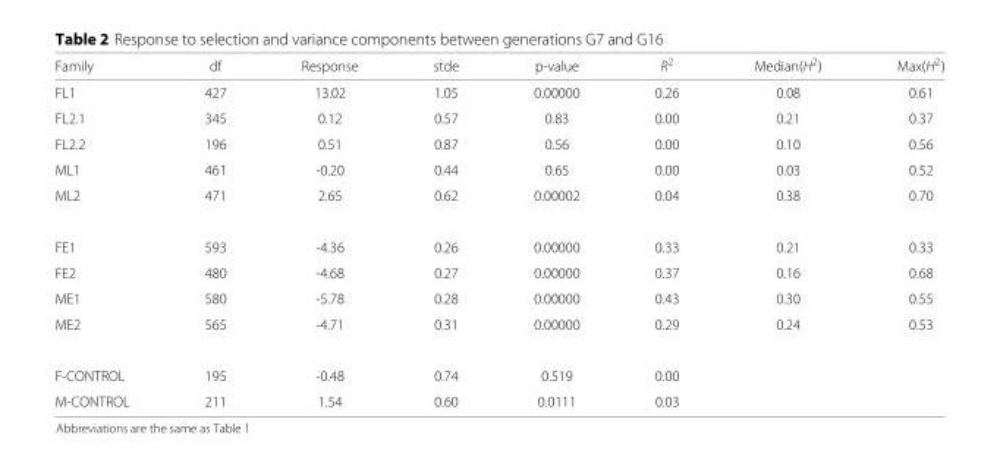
<table><thead><tr><td>Family</td><td>df</td><td>Response</td><td>stde</td><td>p-value</td><td>R<sup>2</sup></td><td>Median(H<sup>2</sup>)</td><td>Max(H<sup>2</sup>)</td></tr></thead><tbody><tr><td>FL1</td><td>427</td><td>13.02</td><td>1.05</td><td>0.00000</td><td>0.26</td><td>0.08</td><td>0.61</td></tr><tr><td>FL2.1</td><td>345</td><td>0.12</td><td>0.57</td><td>0.83</td><td>0.00</td><td>0.21</td><td>0.37</td></tr><tr><td>FL2.2</td><td>196</td><td>0.51</td><td>0.87</td><td>0.56</td><td>0.00</td><td>0.10</td><td>0.56</td></tr><tr><td>ML1</td><td>461</td><td>-0.20</td><td>0.44</td><td>0.65</td><td>0.00</td><td>0.03</td><td>0.52</td></tr><tr><td>ML2</td><td>471</td><td>2.65</td><td>0.62</td><td>0.00002</td><td>0.04</td><td>0.38</td><td>0.70</td></tr><tr><td>FE1</td><td>593</td><td>-4.36</td><td>0.26</td><td>0.00000</td><td>0.33</td><td>0.21</td><td>0.33</td></tr><tr><td>FE2</td><td>480</td><td>-4.68</td><td>0.27</td><td>0.00000</td><td>0.37</td><td>0.16</td><td>0.68</td></tr><tr><td>ME1</td><td>580</td><td>-5.78</td><td>0.28</td><td>0.00000</td><td>0.43</td><td>0.30</td><td>0.55</td></tr><tr><td>ME2</td><td>565</td><td>-4.71</td><td>0.31</td><td>0.00000</td><td>0.29</td><td>0.24</td><td>0.53</td></tr><tr><td>F-CONTROL</td><td>195</td><td>-0.48</td><td>0.74</td><td>0.519</td><td>0.00</td><td></td><td></td></tr><tr><td>M-CONTROL</td><td>211</td><td>1.54</td><td>0.60</td><td>0.0111</td><td>0.03</td><td></td><td></td></tr></tbody></table>